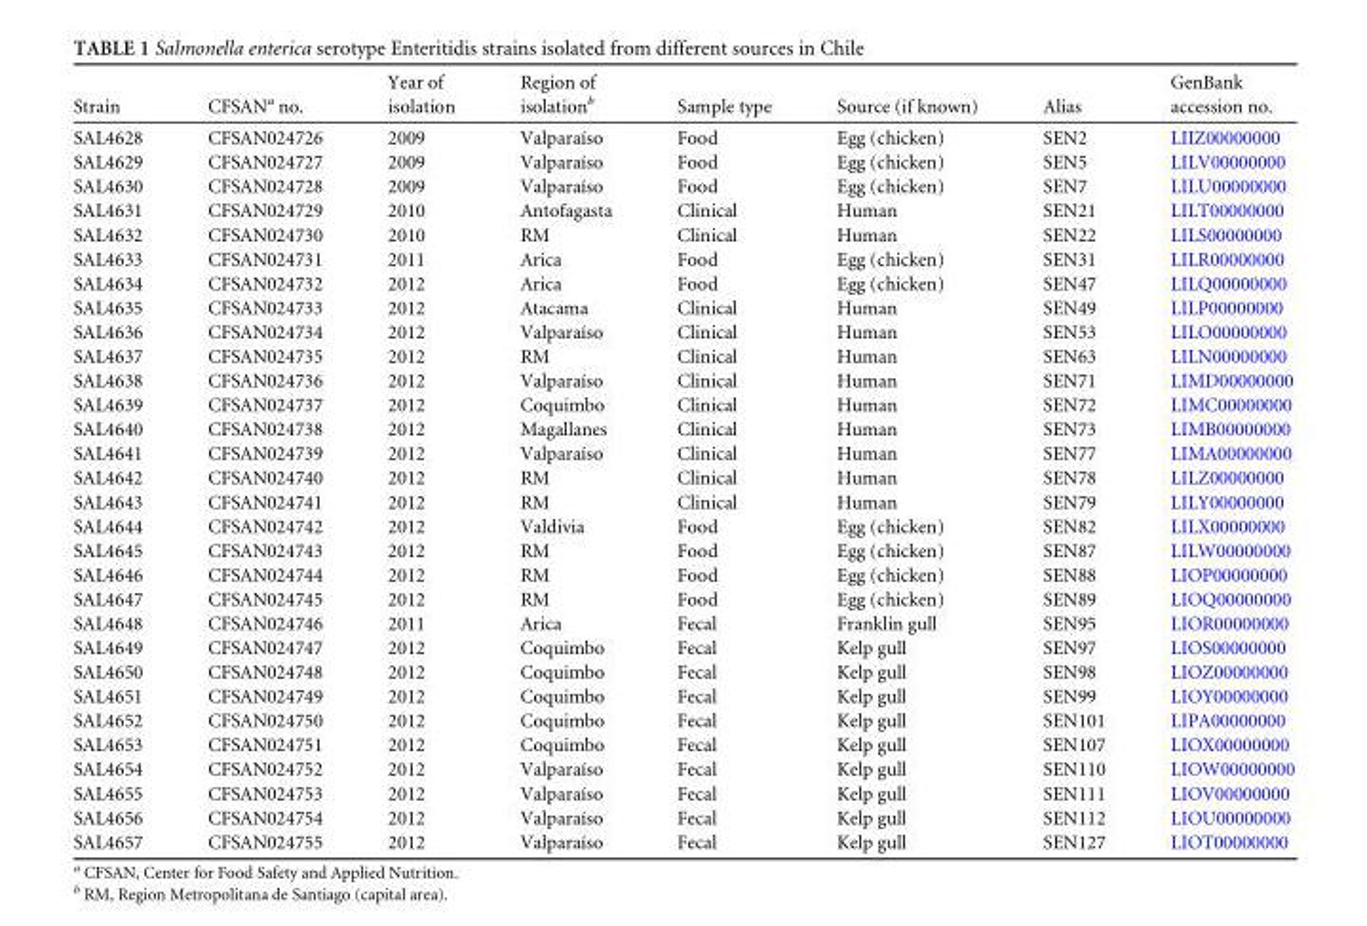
<table><thead><tr><td>Strain</td><td>CFSAN<sup>a</sup> no.</td><td>Year of isolation</td><td>Region of isolation<sup>b</sup></td><td>Sample type</td><td>Source (if known)</td><td>Alias</td><td>GenBank accession no.</td></tr></thead><tbody><tr><td>SAL4628</td><td>CFSAN024726</td><td>2009</td><td>Valparaíso</td><td>Food</td><td>Egg (chicken)</td><td>SEN2</td><td>LIIZ00000000</td></tr><tr><td>SAL4629</td><td>CFSAN024727</td><td>2009</td><td>Valparaíso</td><td>Food</td><td>Egg (chicken)</td><td>SEN5</td><td>LILV00000000</td></tr><tr><td>SAL4630</td><td>CFSAN024728</td><td>2009</td><td>Valparaíso</td><td>Food</td><td>Egg (chicken)</td><td>SEN7</td><td>LILU00000000</td></tr><tr><td>SAL4631</td><td>CFSAN024729</td><td>2010</td><td>Antofagasta</td><td>Clinical</td><td>Human</td><td>SEN21</td><td>LILT00000000</td></tr><tr><td>SAL4632</td><td>CFSAN024730</td><td>2010</td><td>RM</td><td>Clinical</td><td>Human</td><td>SEN22</td><td>LILS00000000</td></tr><tr><td>SAL4633</td><td>CFSAN024731</td><td>2011</td><td>Arica</td><td>Food</td><td>Egg (chicken)</td><td>SEN31</td><td>LILR00000000</td></tr><tr><td>SAL4634</td><td>CFSAN024732</td><td>2012</td><td>Arica</td><td>Food</td><td>Egg (chicken)</td><td>SEN47</td><td>LILQ00000000</td></tr><tr><td>SAL4635</td><td>CFSAN024733</td><td>2012</td><td>Atacama</td><td>Clinical</td><td>Human</td><td>SEN49</td><td>LILP00000000</td></tr><tr><td>SAL4636</td><td>CFSAN024734</td><td>2012</td><td>Valparaíso</td><td>Clinical</td><td>Human</td><td>SEN53</td><td>LILO00000000</td></tr><tr><td>SAL4637</td><td>CFSAN024735</td><td>2012</td><td>RM</td><td>Clinical</td><td>Human</td><td>SEN63</td><td>LILN00000000</td></tr><tr><td>SAL4638</td><td>CFSAN024736</td><td>2012</td><td>Valparaíso</td><td>Clinical</td><td>Human</td><td>SEN71</td><td>LIMD00000000</td></tr><tr><td>SAL4639</td><td>CFSAN024737</td><td>2012</td><td>Coquimbo</td><td>Clinical</td><td>Human</td><td>SEN72</td><td>LIMC00000000</td></tr><tr><td>SAL4640</td><td>CFSAN024738</td><td>2012</td><td>Magallanes</td><td>Clinical</td><td>Human</td><td>SEN73</td><td>LIMB00000000</td></tr><tr><td>SAL4641</td><td>CFSAN024739</td><td>2012</td><td>Valparaíso</td><td>Clinical</td><td>Human</td><td>SEN77</td><td>LIMA00000000</td></tr><tr><td>SAL4642</td><td>CFSAN024740</td><td>2012</td><td>RM</td><td>Clinical</td><td>Human</td><td>SEN78</td><td>LILZ00000000</td></tr><tr><td>SAL4643</td><td>CFSAN024741</td><td>2012</td><td>RM</td><td>Clinical</td><td>Human</td><td>SEN79</td><td>LILY00000000</td></tr><tr><td>SAL4644</td><td>CFSAN024742</td><td>2012</td><td>Valdivia</td><td>Food</td><td>Egg (chicken)</td><td>SEN82</td><td>LILX00000000</td></tr><tr><td>SAL4645</td><td>CFSAN024743</td><td>2012</td><td>RM</td><td>Food</td><td>Egg (chicken)</td><td>SEN87</td><td>LILW00000000</td></tr><tr><td>SAL4646</td><td>CFSAN024744</td><td>2012</td><td>RM</td><td>Food</td><td>Egg (chicken)</td><td>SEN88</td><td>LIOP00000000</td></tr><tr><td>SAL4647</td><td>CFSAN024745</td><td>2012</td><td>RM</td><td>Food</td><td>Egg (chicken)</td><td>SEN89</td><td>LIOQ00000000</td></tr><tr><td>SAL4648</td><td>CFSAN024746</td><td>2011</td><td>Arica</td><td>Fecal</td><td>Franklin gull</td><td>SEN95</td><td>LIOR00000000</td></tr><tr><td>SAL4649</td><td>CFSAN024747</td><td>2012</td><td>Coquimbo</td><td>Fecal</td><td>Kelp gull</td><td>SEN97</td><td>LIOS00000000</td></tr><tr><td>SAL4650</td><td>CFSAN024748</td><td>2012</td><td>Coquimbo</td><td>Fecal</td><td>Kelp gull</td><td>SEN98</td><td>LIOZ00000000</td></tr><tr><td>SAL4651</td><td>CFSAN024749</td><td>2012</td><td>Coquimbo</td><td>Fecal</td><td>Kelp gull</td><td>SEN99</td><td>LIOY00000000</td></tr><tr><td>SAL4652</td><td>CFSAN024750</td><td>2012</td><td>Coquimbo</td><td>Fecal</td><td>Kelp gull</td><td>SEN101</td><td>LIPA00000000</td></tr><tr><td>SAL4653</td><td>CFSAN024751</td><td>2012</td><td>Coquimbo</td><td>Fecal</td><td>Kelp gull</td><td>SEN107</td><td>LIOX00000000</td></tr><tr><td>SAL4654</td><td>CFSAN024752</td><td>2012</td><td>Valparaíso</td><td>Fecal</td><td>Kelp gull</td><td>SEN110</td><td>LIOW00000000</td></tr><tr><td>SAL4655</td><td>CFSAN024753</td><td>2012</td><td>Valparaíso</td><td>Fecal</td><td>Kelp gull</td><td>SEN111</td><td>LIOV00000000</td></tr><tr><td>SAL4656</td><td>CFSAN024754</td><td>2012</td><td>Valparaíso</td><td>Fecal</td><td>Kelp gull</td><td>SEN112</td><td>LIOU00000000</td></tr><tr><td>SAL4657</td><td>CFSAN024755</td><td>2012</td><td>Valparaíso</td><td>Fecal</td><td>Kelp gull</td><td>SEN127</td><td>LIOT00000000</td></tr></tbody></table>